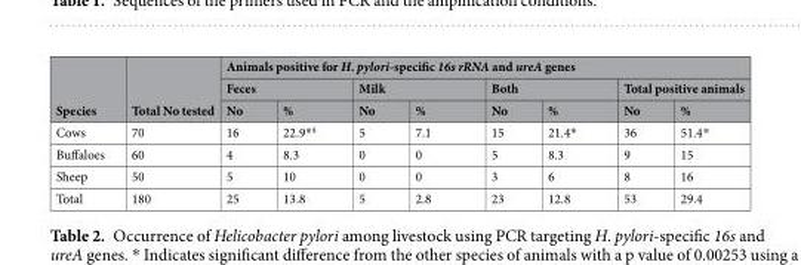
<table><thead><tr><td rowspan="3">Species</td><td rowspan="3">Total No tested</td><td colspan="8">Animals positive for H. pylori-specific 16s rRNA and ureA genes</td></tr><tr><td colspan="2">Feces</td><td colspan="2">Milk</td><td colspan="2">Both</td><td colspan="2">Total positive animals</td></tr><tr><td>No</td><td>%</td><td>No</td><td>%</td><td>No</td><td>%</td><td>No</td><td>%</td></tr></thead><tbody><tr><td>Cows</td><td>70</td><td>16</td><td>22.9*<sup>§</sup></td><td>5</td><td>7.1</td><td>15</td><td>21.4*</td><td>36</td><td>51.4*</td></tr><tr><td>Buffaloes</td><td>60</td><td>4</td><td>8.3</td><td>0</td><td>0</td><td>5</td><td>8.3</td><td>9</td><td>15</td></tr><tr><td>Sheep</td><td>50</td><td>5</td><td>10</td><td>0</td><td>0</td><td>3</td><td>6</td><td>8</td><td>16</td></tr><tr><td>Total</td><td>180</td><td>25</td><td>13.8</td><td>5</td><td>2.8</td><td>23</td><td>12.8</td><td>53</td><td>29.4</td></tr></tbody></table>